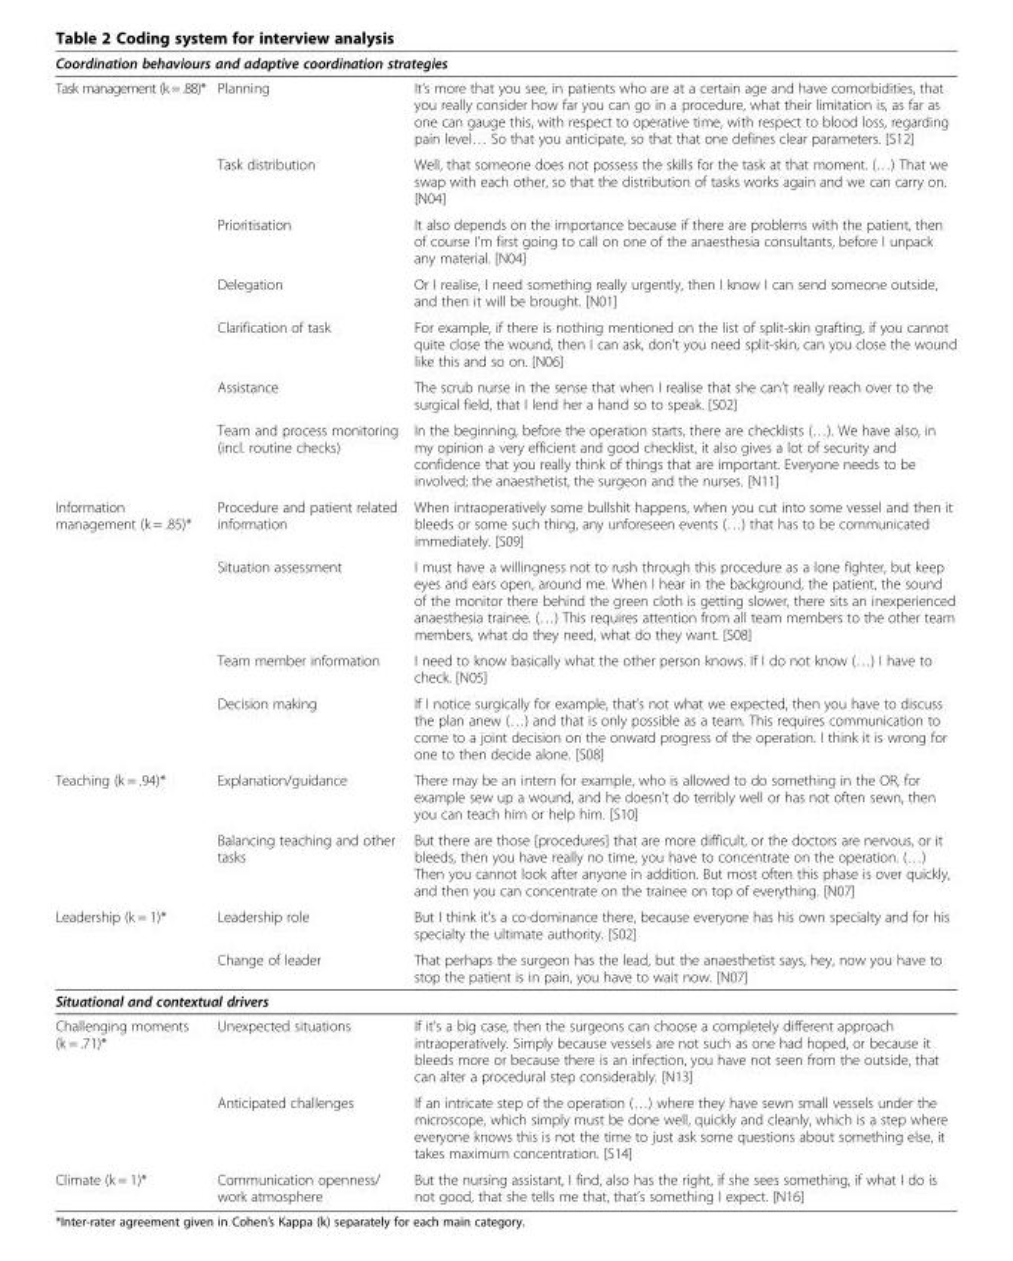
<table><thead><tr><td colspan="3">Coordination behaviours and adaptive coordination strategies</td></tr><tr><td>Task management (k = .88)*</td><td>Planning</td><td>It’s more that you see, in patients who are at a certain age and have comorbidities, that you really consider how far you can go in a procedure, what their limitation is, as far as one can gauge this, with respect to operative time, with respect to blood loss, regarding pain level… So that you anticipate, so that that one defines clear parameters. [S12]</td></tr></thead><tbody><tr><td></td><td>Task distribution</td><td>Well, that someone does not possess the skills for the task at that moment. (…) That we swap with each other, so that the distribution of tasks works again and we can carry on. [N04]</td></tr><tr><td></td><td>Prioritisation</td><td>It also depends on the importance because if there are problems with the patient, then of course I’m first going to call on one of the anaesthesia consultants, before I unpack any material. [N04]</td></tr><tr><td></td><td>Delegation</td><td>Or I realise, I need something really urgently, then I know I can send someone outside, and then it will be brought. [N01]</td></tr><tr><td></td><td>Clarification of task</td><td>For example, if there is nothing mentioned on the list of split-skin grafting, if you cannot quite close the wound, then I can ask, don’t you need split-skin, can you close the wound like this and so on. [N06]</td></tr><tr><td></td><td>Assistance</td><td>The scrub nurse in the sense that when I realise that she can’t really reach over to the surgical field, that I lend her a hand so to speak. [S02]</td></tr><tr><td></td><td>Team and process monitoring (incl. routine checks)</td><td>In the beginning, before the operation starts, there are checklists (…). We have also, in my opinion a very efficient and good checklist, it also gives a lot of security and confidence that you really think of things that are important. Everyone needs to be involved; the anaesthetist, the surgeon and the nurses. [N11]</td></tr><tr><td rowspan="4">Information management (k = .85)*</td><td>Procedure and patient related information</td><td>When intraoperatively some bullshit happens, when you cut into some vessel and then it bleeds or some such thing, any unforeseen events (…) that has to be communicated immediately. [S09]</td></tr><tr><td>Situation assessment</td><td>I must have a willingness not to rush through this procedure as a lone fighter, but keep eyes and ears open, around me. When I hear in the background, the patient, the sound of the monitor there behind the green cloth is getting slower, there sits an inexperienced anaesthesia trainee. (…) This requires attention from all team members to the other team members, what do they need, what do they want. [S08]</td></tr><tr><td>Team member information</td><td>I need to know basically what the other person knows. If I do not know (…) I have to check. [N05]</td></tr><tr><td>Decision making</td><td>If I notice surgically for example, that’s not what we expected, then you have to discuss the plan anew (…) and that is only possible as a team. This requires communication to come to a joint decision on the onward progress of the operation. I think it is wrong for one to then decide alone. [S08]</td></tr><tr><td rowspan="2">Teaching (k = .94)*</td><td>Explanation/guidance</td><td>There may be an intern for example, who is allowed to do something in the OR, for example sew up a wound, and he doesn’t do terribly well or has not often sewn, then you can teach him or help him. [S10]</td></tr><tr><td>Balancing teaching and other tasks</td><td>But there are those [procedures] that are more difficult, or the doctors are nervous, or it bleeds, then you have really no time, you have to concentrate on the operation. (…) Then you cannot look after anyone in addition. But most often this phase is over quickly, and then you can concentrate on the trainee on top of everything. [N07]</td></tr><tr><td rowspan="2">Leadership (k = 1)*</td><td>Leadership role</td><td>But I think it’s a co-dominance there, because everyone has his own specialty and for his specialty the ultimate authority. [S02]</td></tr><tr><td>Change of leader</td><td>That perhaps the surgeon has the lead, but the anaesthetist says, hey, now you have to stop the patient is in pain, you have to wait now. [N07]</td></tr><tr><td colspan="3">Situational and contextual drivers</td></tr><tr><td rowspan="2">Challenging moments (k = .71)*</td><td>Unexpected situations</td><td>If it’s a big case, then the surgeons can choose a completely different approach intraoperatively. Simply because vessels are not such as one had hoped, or because it bleeds more or because there is an infection, you have not seen from the outside, that can alter a procedural step considerably. [N13]</td></tr><tr><td>Anticipated challenges</td><td>If an intricate step of the operation (…) where they have sewn small vessels under the microscope, which simply must be done well, quickly and cleanly, which is a step where everyone knows this is not the time to just ask some questions about something else, it takes maximum concentration. [S14]</td></tr><tr><td>Climate (k = 1)*</td><td>Communication openness/ work atmosphere</td><td>But the nursing assistant, I find, also has the right, if she sees something, if what I do is not good, that she tells me that, that’s something I expect. [N16]</td></tr></tbody></table>